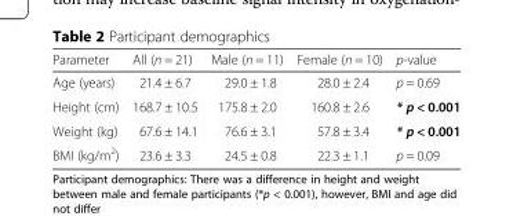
<table><thead><tr><td>Parameter</td><td>All (n = 21)</td><td>Male (n = 11)</td><td>Female (n = 10)</td><td>p-value</td></tr></thead><tbody><tr><td>Age (years)</td><td>21.4 ± 6.7</td><td>29.0 ± 1.8</td><td>28.0 ± 2.4</td><td>p = 0.69</td></tr><tr><td>Height (cm)</td><td>168.7 ± 10.5</td><td>175.8 ± 2.0</td><td>160.8 ± 2.6</td><td>* p &lt; 0.001</td></tr><tr><td>Weight (kg)</td><td>67.6 ± 14.1</td><td>76.6 ± 3.1</td><td>57.8 ± 3.4</td><td>* p &lt; 0.001</td></tr><tr><td>BMI (kg/m<sup>2</sup>)</td><td>23.6 ± 3.3</td><td>24.5 ± 0.8</td><td>22.3 ± 1.1</td><td>p = 0.09</td></tr></tbody></table>